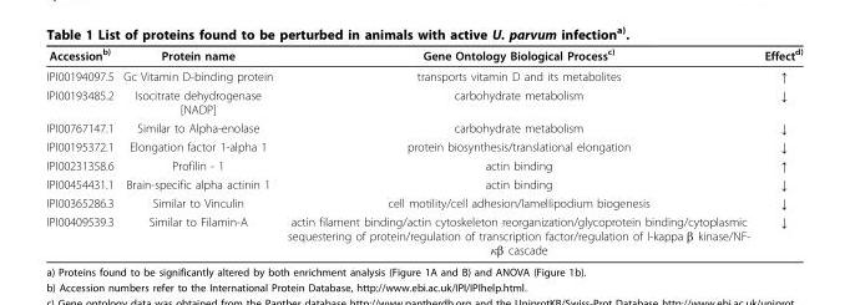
<table><thead><tr><td>Accession<sup>b)</sup></td><td>Protein name</td><td>Gene Ontology Biological Process<sup>c)</sup></td><td>Effect<sup>d)</sup></td></tr></thead><tbody><tr><td>IPI00194097.5</td><td>Gc Vitamin D-binding protein</td><td>transports vitamin D and its metabolites</td><td>↑</td></tr><tr><td>IPI00193485.2</td><td>Isocitrate dehydrogenase [NADP]</td><td>carbohydrate metabolism</td><td>↓</td></tr><tr><td>IPI00767147.1</td><td>Similar to Alpha-enolase</td><td>carbohydrate metabolism</td><td>↓</td></tr><tr><td>IPI00195372.1</td><td>Elongation factor 1-alpha 1</td><td>protein biosynthesis/translational elongation</td><td>↓</td></tr><tr><td>IPI00231358.6</td><td>Profilin - 1</td><td>actin binding</td><td>↑</td></tr><tr><td>IPI00454431.1</td><td>Brain-specific alpha actinin 1</td><td>actin binding</td><td>↓</td></tr><tr><td>IPI00365286.3</td><td>Similar to Vinculin</td><td>cell motility/cell adhesion/lamellipodium biogenesis</td><td>↓</td></tr><tr><td>IPI00409539.3</td><td>Similar to Filamin-A</td><td>actin filament binding/actin cytoskeleton reorganization/glycoprotein binding/cytoplasmic sequestering of protein/regulation of transcription factor/regulation of I-kappa β kinase/NF- κβ cascade</td><td>↓</td></tr></tbody></table>